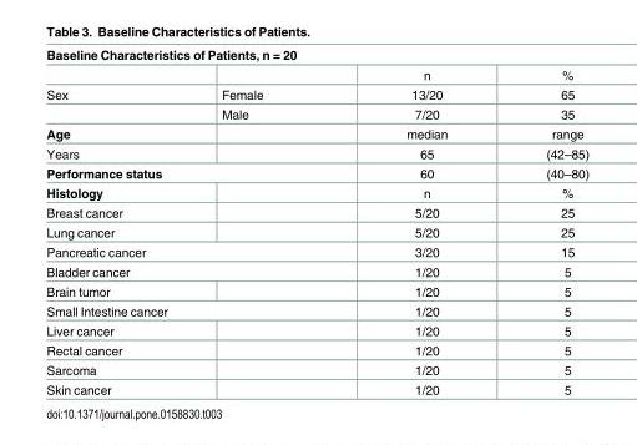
<table><thead><tr><td colspan="4">Baseline Characteristics of Patients, n = 20</td></tr><tr><td></td><td></td><td>n</td><td>%</td></tr></thead><tbody><tr><td rowspan="2">Sex</td><td>Female</td><td>13/20</td><td>65</td></tr><tr><td>Male</td><td>7/20</td><td>35</td></tr><tr><td>Age</td><td></td><td>median</td><td>range</td></tr><tr><td>Years</td><td></td><td>65</td><td>(42–85)</td></tr><tr><td colspan="2">Performance status</td><td>60</td><td>(40–80)</td></tr><tr><td>Histology</td><td></td><td>n</td><td>%</td></tr><tr><td>Breast cancer</td><td></td><td>5/20</td><td>25</td></tr><tr><td>Lung cancer</td><td></td><td>5/20</td><td>25</td></tr><tr><td colspan="2">Pancreatic cancer</td><td>3/20</td><td>15</td></tr><tr><td colspan="2">Bladder cancer</td><td>1/20</td><td>5</td></tr><tr><td>Brain tumor</td><td></td><td>1/20</td><td>5</td></tr><tr><td colspan="2">Small Intestine cancer</td><td>1/20</td><td>5</td></tr><tr><td>Liver cancer</td><td></td><td>1/20</td><td>5</td></tr><tr><td>Rectal cancer</td><td></td><td>1/20</td><td>5</td></tr><tr><td>Sarcoma</td><td></td><td>1/20</td><td>5</td></tr><tr><td>Skin cancer</td><td></td><td>1/20</td><td>5</td></tr></tbody></table>